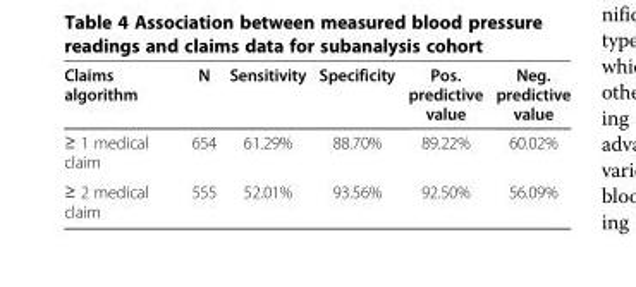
<table><thead><tr><td>Claims algorithm</td><td>N</td><td>Sensitivity</td><td>Specificity</td><td>Pos. predictive value</td><td>Neg. predictive value</td></tr></thead><tbody><tr><td>≥ 1 medical claim</td><td>654</td><td>61.29%</td><td>88.70%</td><td>89.22%</td><td>60.02%</td></tr><tr><td>≥ 2 medical claim</td><td>555</td><td>52.01%</td><td>93.56%</td><td>92.50%</td><td>56.09%</td></tr></tbody></table>